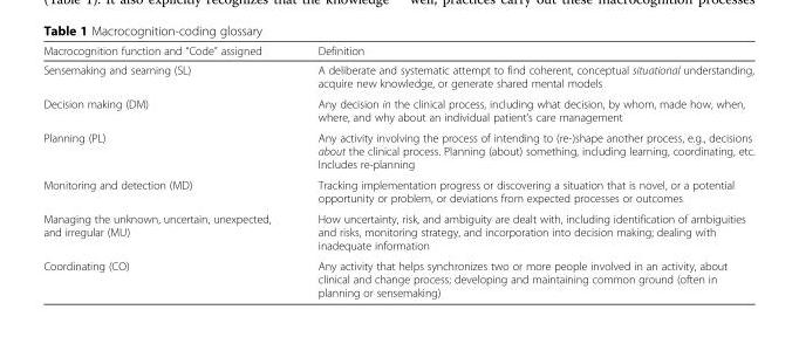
<table><thead><tr><td>Macrocognition function and “Code” assigned</td><td>Definition</td></tr></thead><tbody><tr><td>Sensemaking and searning (SL)</td><td>A deliberate and systematic attempt to find coherent, conceptual situational understanding, acquire new knowledge, or generate shared mental models</td></tr><tr><td>Decision making (DM)</td><td>Any decision in the clinical process, including what decision, by whom, made how, when, where, and why about an individual patient’s care management</td></tr><tr><td>Planning (PL)</td><td>Any activity involving the process of intending to (re-)shape another process, e.g., decisions about the clinical process. Planning (about) something, including learning, coordinating, etc. Includes re-planning</td></tr><tr><td>Monitoring and detection (MD)</td><td>Tracking implementation progress or discovering a situation that is novel, or a potential opportunity or problem, or deviations from expected processes or outcomes</td></tr><tr><td>Managing the unknown, uncertain, unexpected, and irregular (MU)</td><td>How uncertainty, risk, and ambiguity are dealt with, including identification of ambiguities and risks, monitoring strategy, and incorporation into decision making; dealing with inadequate information</td></tr><tr><td>Coordinating (CO)</td><td>Any activity that helps synchronizes two or more people involved in an activity, about clinical and change process; developing and maintaining common ground (often in planning or sensemaking)</td></tr></tbody></table>